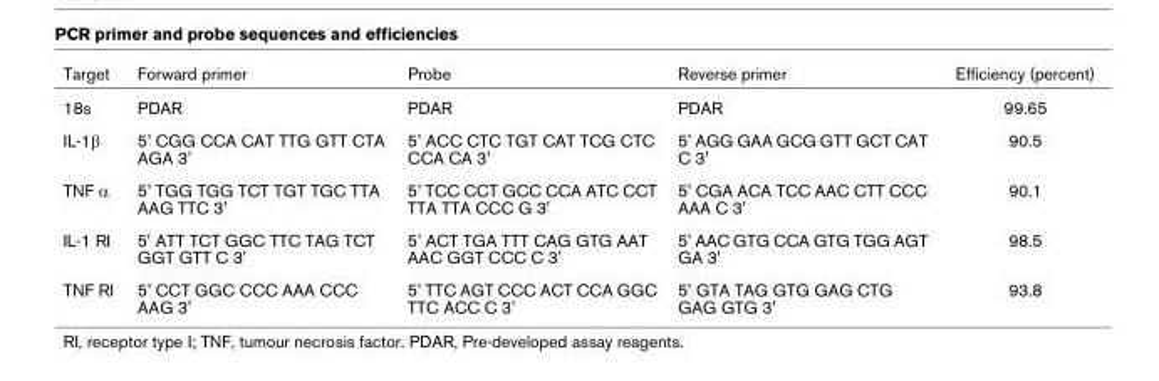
<table><thead><tr><td>Target</td><td>Forward primer</td><td>Probe</td><td>Reverse primer</td><td>Efficiency (percent)</td></tr></thead><tbody><tr><td>18s</td><td>PDAR</td><td>PDAR</td><td>PDAR</td><td>99.65</td></tr><tr><td>IL-1β</td><td>5&#x27; CGG CCA CAT TTG GTT CTA AGA 3&#x27;</td><td>5&#x27; ACC CTC TGT CAT TCG CTC CCA CA 3&#x27;</td><td>5&#x27; AGG GAA GCG GTT GCT CAT C 3&#x27;</td><td>90.5</td></tr><tr><td>TNF α</td><td>5&#x27; TGG TGG TCT TGT TGC TTA AAG TTC 3&#x27;</td><td>5&#x27; TCC CCT GCC CCA ATC CCT TTA TTA CCC G 3&#x27;</td><td>5&#x27; CGA ACA TCC AAC CTT CCC AAA C 3&#x27;</td><td>90.1</td></tr><tr><td>IL-1 RI</td><td>5&#x27; ATT TCT GGC TTC TAG TCT GGT GTT C 3&#x27;</td><td>5&#x27; ACT TGA TTT CAG GTG AAT AAC GGT CCC C 3&#x27;</td><td>5&#x27; AAC GTG CCA GTG TGG AGT GA 3&#x27;</td><td>98.5</td></tr><tr><td>TNF RI</td><td>5&#x27; CCT GGC CCC AAA CCC AAG 3&#x27;</td><td>5&#x27; TTC AGT CCC ACT CCA GGC TTC ACC C 3&#x27;</td><td>5&#x27; GTA TAG GTG GAG CTG GAG GTG 3&#x27;</td><td>93.8</td></tr></tbody></table>